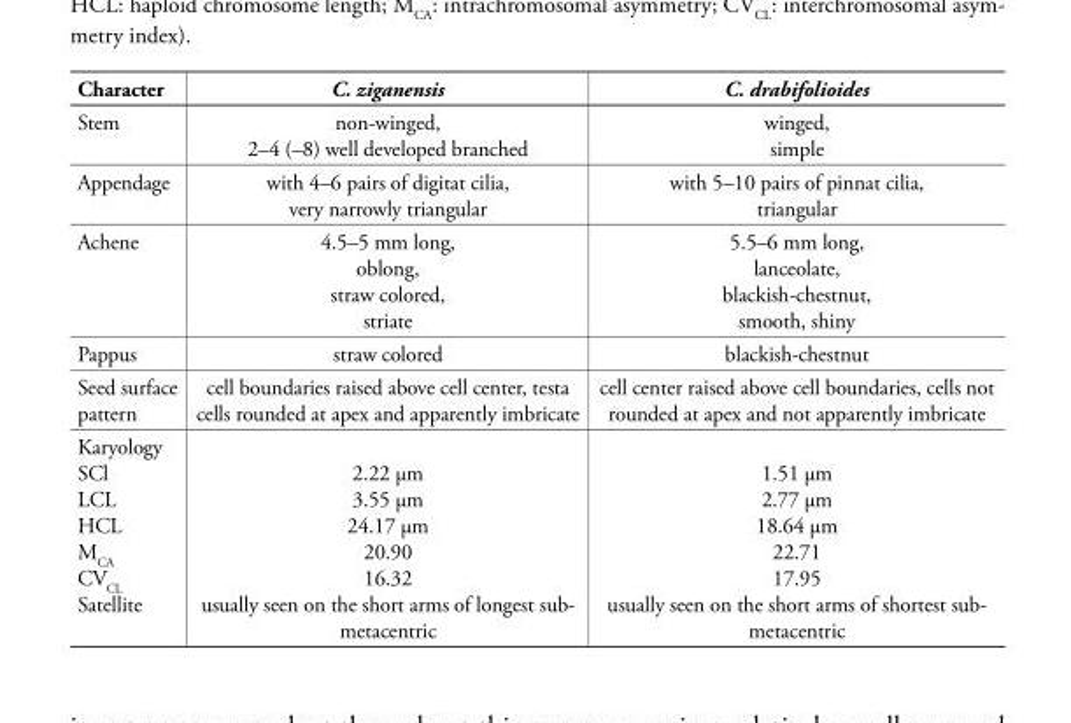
<table><tbody><tr><td>Character</td><td>C. ziganensis</td><td>C. drabifolioides</td></tr><tr><td>Stem</td><td>non-winged, 2–4 (–8) well developed branched</td><td>winged, simple</td></tr><tr><td>Appendage</td><td>with 4–6 pairs of digitat cilia, very narrowly triangular</td><td>with 5–10 pairs of pinnat cilia, triangular</td></tr><tr><td>Achene</td><td>4.5–5 mm long, oblong, straw colored, striate</td><td>5.5–6 mm long, lanceolate, blackish-chestnut, smooth, shiny</td></tr><tr><td>Pappus</td><td>straw colored</td><td>blackish-chestnut</td></tr><tr><td>Seed surface pattern</td><td>cell boundaries raised above cell center, testa cells rounded at apex and apparently imbricate</td><td>cell center raised above cell boundaries, cells not rounded at apex and not apparently imbricate</td></tr><tr><td>Karyology SCl LCL HCL M<sub>CA</sub> CV<sub>CL</sub> Satellite</td><td>2.22 μm 3.55 μm 24.17 μm 20.90 16.32 usually seen on the short arms of longest sub- metacentric</td><td>1.51 μm 2.77 μm 18.64 μm 22.71 17.95 usually seen on the short arms of shortest sub- metacentric</td></tr></tbody></table>